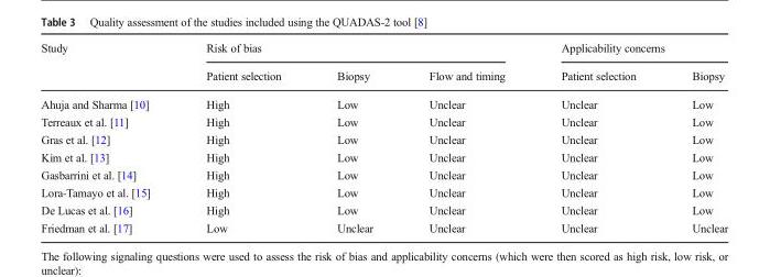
<table><thead><tr><td rowspan="2">Study</td><td colspan="3">Risk of bias</td><td colspan="2">Applicability concerns</td></tr><tr><td>Patient selection</td><td>Biopsy</td><td>Flow and timing</td><td>Patient selection</td><td>Biopsy</td></tr></thead><tbody><tr><td>Ahuja and Sharma [10]</td><td>High</td><td>Low</td><td>Unclear</td><td>Unclear</td><td>Low</td></tr><tr><td>Terreaux et al. [11]</td><td>High</td><td>Low</td><td>Unclear</td><td>Unclear</td><td>Low</td></tr><tr><td>Gras et al. [12]</td><td>High</td><td>Low</td><td>Unclear</td><td>Unclear</td><td>Low</td></tr><tr><td>Kim et al. [13]</td><td>High</td><td>Low</td><td>Unclear</td><td>Unclear</td><td>Low</td></tr><tr><td>Gasbarrini et al. [14]</td><td>High</td><td>Low</td><td>Unclear</td><td>Unclear</td><td>Low</td></tr><tr><td>Lora-Tamayo et al. [15]</td><td>High</td><td>Low</td><td>Unclear</td><td>Unclear</td><td>Low</td></tr><tr><td>De Lucas et al. [16]</td><td>High</td><td>Low</td><td>Unclear</td><td>Unclear</td><td>Low</td></tr><tr><td>Friedman et al. [17]</td><td>Low</td><td>Unclear</td><td>Unclear</td><td>Unclear</td><td>Unclear</td></tr></tbody></table>